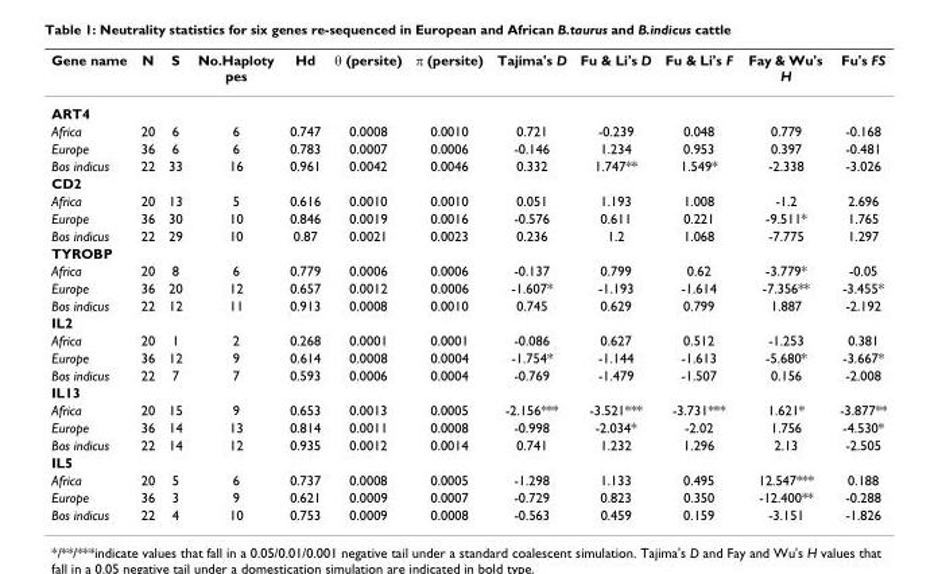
<table><thead><tr><td>Gene name</td><td>N</td><td>S</td><td>No.Haploty pes</td><td>Hd</td><td>θ (persite)</td><td>π (persite)</td><td>Tajima&#x27;s D</td><td>Fu &amp; Li&#x27;s D</td><td>Fu &amp; Li&#x27;s F</td><td>Fay &amp; Wu&#x27;s H</td><td>Fu&#x27;s FS</td></tr></thead><tbody><tr><td colspan="12">ART4</td></tr><tr><td>Africa</td><td>20</td><td>6</td><td>6</td><td>0.747</td><td>0.0008</td><td>0.0010</td><td>0.721</td><td>-0.239</td><td>0.048</td><td>0.779</td><td>-0.168</td></tr><tr><td>Europe</td><td>36</td><td>6</td><td>6</td><td>0.783</td><td>0.0007</td><td>0.0006</td><td>-0.146</td><td>1.234</td><td>0.953</td><td>0.397</td><td>-0.481</td></tr><tr><td>Bos indicus</td><td>22</td><td>33</td><td>16</td><td>0.961</td><td>0.0042</td><td>0.0046</td><td>0.332</td><td>1.747**</td><td>1.549*</td><td>-2.338</td><td>-3.026</td></tr><tr><td colspan="12">CD2</td></tr><tr><td>Africa</td><td>20</td><td>13</td><td>5</td><td>0.616</td><td>0.0010</td><td>0.0010</td><td>0.051</td><td>1.193</td><td>1.008</td><td>-1.2</td><td>2.696</td></tr><tr><td>Europe</td><td>36</td><td>30</td><td>10</td><td>0.846</td><td>0.0019</td><td>0.0016</td><td>-0.576</td><td>0.611</td><td>0.221</td><td>-9.511*</td><td>1.765</td></tr><tr><td>Bos indicus</td><td>22</td><td>29</td><td>10</td><td>0.87</td><td>0.0021</td><td>0.0023</td><td>0.236</td><td>1.2</td><td>1.068</td><td>-7.775</td><td>1.297</td></tr><tr><td colspan="12">TYROBP</td></tr><tr><td>Africa</td><td>20</td><td>8</td><td>6</td><td>0.779</td><td>0.0006</td><td>0.0006</td><td>-0.137</td><td>0.799</td><td>0.62</td><td>-3.779*</td><td>-0.05</td></tr><tr><td>Europe</td><td>36</td><td>20</td><td>12</td><td>0.657</td><td>0.0012</td><td>0.0006</td><td>-1.607*</td><td>-1.193</td><td>-1.614</td><td>-7.356**</td><td>-3.455*</td></tr><tr><td>Bos indicus</td><td>22</td><td>12</td><td>11</td><td>0.913</td><td>0.0008</td><td>0.0010</td><td>0.745</td><td>0.629</td><td>0.799</td><td>1.887</td><td>-2.192</td></tr><tr><td colspan="12">IL2</td></tr><tr><td>Africa</td><td>20</td><td>1</td><td>2</td><td>0.268</td><td>0.0001</td><td>0.0001</td><td>-0.086</td><td>0.627</td><td>0.512</td><td>-1.253</td><td>0.381</td></tr><tr><td>Europe</td><td>36</td><td>12</td><td>9</td><td>0.614</td><td>0.0008</td><td>0.0004</td><td>-1.754*</td><td>-1.144</td><td>-1.613</td><td>-5.680*</td><td>-3.667*</td></tr><tr><td>Bos indicus</td><td>22</td><td>7</td><td>7</td><td>0.593</td><td>0.0006</td><td>0.0004</td><td>-0.769</td><td>-1.479</td><td>-1.507</td><td>0.156</td><td>-2.008</td></tr><tr><td colspan="12">IL13</td></tr><tr><td>Africa</td><td>20</td><td>15</td><td>9</td><td>0.653</td><td>0.0013</td><td>0.0005</td><td>-2.156***</td><td>-3.521***</td><td>-3.731***</td><td>1.621*</td><td>-3.877**</td></tr><tr><td>Europe</td><td>36</td><td>14</td><td>13</td><td>0.814</td><td>0.0011</td><td>0.0008</td><td>-0.998</td><td>-2.034*</td><td>-2.02</td><td>1.756</td><td>-4.530*</td></tr><tr><td>Bos indicus</td><td>22</td><td>14</td><td>12</td><td>0.935</td><td>0.0012</td><td>0.0014</td><td>0.741</td><td>1.232</td><td>1.296</td><td>2.13</td><td>-2.505</td></tr><tr><td colspan="12">IL5</td></tr><tr><td>Africa</td><td>20</td><td>5</td><td>6</td><td>0.737</td><td>0.0008</td><td>0.0005</td><td>-1.298</td><td>1.133</td><td>0.495</td><td>12.547***</td><td>0.188</td></tr><tr><td>Europe</td><td>36</td><td>3</td><td>9</td><td>0.621</td><td>0.0009</td><td>0.0007</td><td>-0.729</td><td>0.823</td><td>0.350</td><td>-12.400**</td><td>-0.288</td></tr><tr><td>Bos indicus</td><td>22</td><td>4</td><td>10</td><td>0.753</td><td>0.0009</td><td>0.0008</td><td>-0.563</td><td>0.459</td><td>0.159</td><td>-3.151</td><td>-1.826</td></tr></tbody></table>